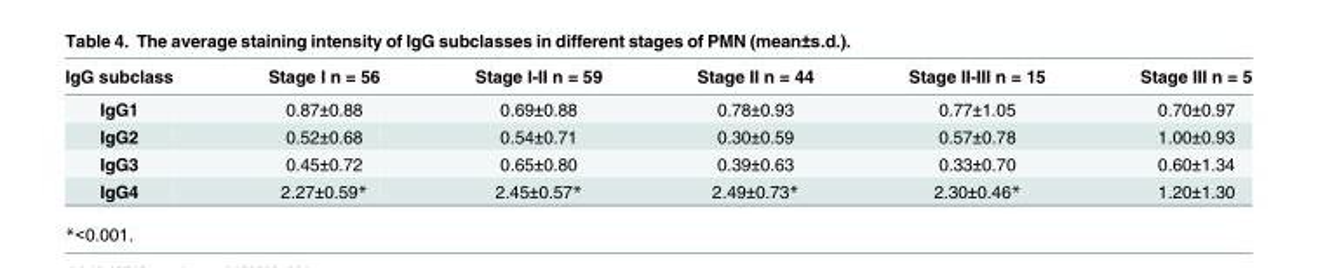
<table><thead><tr><td>IgG subclass</td><td>Stage I n = 56</td><td>Stage I-II n = 59</td><td>Stage II n = 44</td><td>Stage II-III n = 15</td><td>Stage III n = 5</td></tr></thead><tbody><tr><td>IgG1</td><td>0.87±0.88</td><td>0.69±0.88</td><td>0.78±0.93</td><td>0.77±1.05</td><td>0.70±0.97</td></tr><tr><td>IgG2</td><td>0.52±0.68</td><td>0.54±0.71</td><td>0.30±0.59</td><td>0.57±0.78</td><td>1.00±0.93</td></tr><tr><td>IgG3</td><td>0.45±0.72</td><td>0.65±0.80</td><td>0.39±0.63</td><td>0.33±0.70</td><td>0.60±1.34</td></tr><tr><td>IgG4</td><td>2.27±0.59*</td><td>2.45±0.57*</td><td>2.49±0.73*</td><td>2.30±0.46*</td><td>1.20±1.30</td></tr></tbody></table>